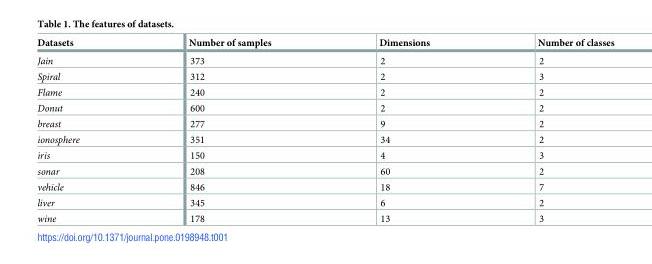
<table><thead><tr><td>Datasets</td><td>Number of samples</td><td>Dimensions</td><td>Number of classes</td></tr></thead><tbody><tr><td>Jain</td><td>373</td><td>2</td><td>2</td></tr><tr><td>Spiral</td><td>312</td><td>2</td><td>3</td></tr><tr><td>Flame</td><td>240</td><td>2</td><td>2</td></tr><tr><td>Donut</td><td>600</td><td>2</td><td>2</td></tr><tr><td>breast</td><td>277</td><td>9</td><td>2</td></tr><tr><td>ionosphere</td><td>351</td><td>34</td><td>2</td></tr><tr><td>iris</td><td>150</td><td>4</td><td>3</td></tr><tr><td>sonar</td><td>208</td><td>60</td><td>2</td></tr><tr><td>vehicle</td><td>846</td><td>18</td><td>7</td></tr><tr><td>liver</td><td>345</td><td>6</td><td>2</td></tr><tr><td>wine</td><td>178</td><td>13</td><td>3</td></tr></tbody></table>